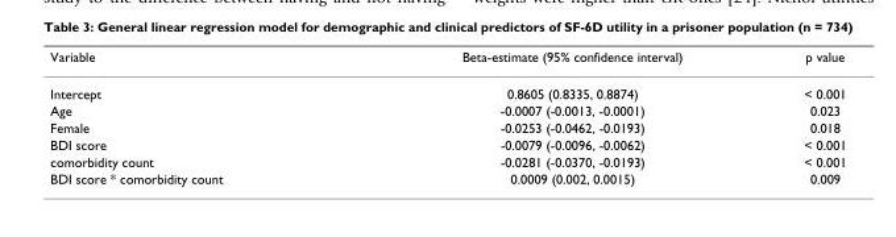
<table><thead><tr><td>Variable</td><td>Beta-estimate (95% confidence interval)</td><td>p value</td></tr></thead><tbody><tr><td>Intercept</td><td>0.8605 (0.8335, 0.8874)</td><td>&lt; 0.001</td></tr><tr><td>Age</td><td>-0.0007 (-0.0013, -0.0001)</td><td>0.023</td></tr><tr><td>Female</td><td>-0.0253 (-0.0462, -0.0193)</td><td>0.018</td></tr><tr><td>BDI score</td><td>-0.0079 (-0.0096, -0.0062)</td><td>&lt; 0.001</td></tr><tr><td>comorbidity count</td><td>-0.0281 (-0.0370, -0.0193)</td><td>&lt; 0.001</td></tr><tr><td>BDI score * comorbidity count</td><td>0.0009 (0.002, 0.0015)</td><td>0.009</td></tr></tbody></table>